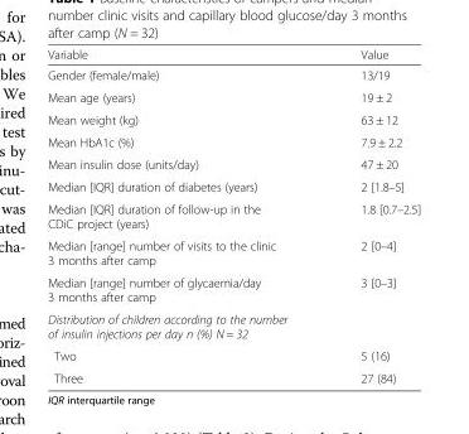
<table><thead><tr><td>Variable</td><td>Value</td></tr></thead><tbody><tr><td>Gender (female/male)</td><td>13/19</td></tr><tr><td>Mean age (years)</td><td>19 ± 2</td></tr><tr><td>Mean weight (kg)</td><td>63 ± 12</td></tr><tr><td>Mean HbA1c (%)</td><td>7.9 ± 2.2</td></tr><tr><td>Mean insulin dose (units/day)</td><td>47 ± 20</td></tr><tr><td>Median [IQR] duration of diabetes (years)</td><td>2 [1.8–5]</td></tr><tr><td>Median [IQR] duration of follow-up in the CDiC project (years)</td><td>1.8 [0.7–2.5]</td></tr><tr><td>Median [range] number of visits to the clinic 3 months after camp</td><td>2 [0–4]</td></tr><tr><td>Median [range] number of glycaemia/day 3 months after camp</td><td>3 [0–3]</td></tr><tr><td colspan="2">Distribution of children according to the number of insulin injections per day n (%) N = 32</td></tr><tr><td>Two</td><td>5 (16)</td></tr><tr><td>Three</td><td>27 (84)</td></tr></tbody></table>